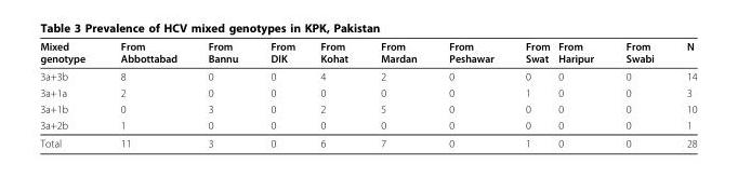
<table><thead><tr><td>Mixed genotype</td><td>From Abbottabad</td><td>From Bannu</td><td>From DIK</td><td>From Kohat</td><td>From Mardan</td><td>From Peshawar</td><td>From Swat</td><td>From Haripur</td><td>From Swabi</td><td>N</td></tr></thead><tbody><tr><td>3a+3b</td><td>8</td><td>0</td><td>0</td><td>4</td><td>2</td><td>0</td><td>0</td><td>0</td><td>0</td><td>14</td></tr><tr><td>3a+1a</td><td>2</td><td>0</td><td>0</td><td>0</td><td>0</td><td>0</td><td>1</td><td>0</td><td>0</td><td>3</td></tr><tr><td>3a+1b</td><td>0</td><td>3</td><td>0</td><td>2</td><td>5</td><td>0</td><td>0</td><td>0</td><td>0</td><td>10</td></tr><tr><td>3a+2b</td><td>1</td><td>0</td><td>0</td><td>0</td><td>0</td><td>0</td><td>0</td><td>0</td><td>0</td><td>1</td></tr><tr><td>Total</td><td>11</td><td>3</td><td>0</td><td>6</td><td>7</td><td>0</td><td>1</td><td>0</td><td>0</td><td>28</td></tr></tbody></table>